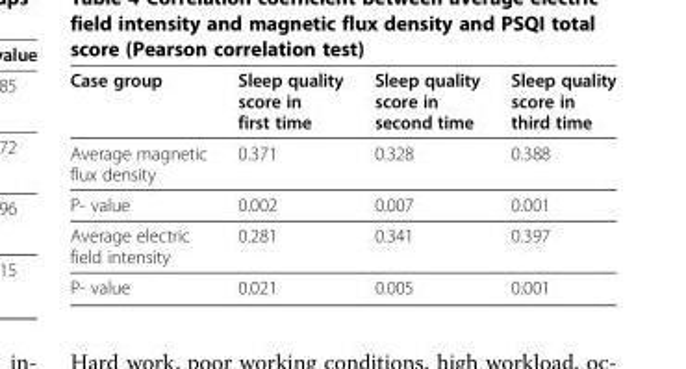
<table><thead><tr><td>Case group</td><td>Sleep quality score in first time</td><td>Sleep quality score in second time</td><td>Sleep quality score in third time</td></tr></thead><tbody><tr><td>Average magnetic flux density</td><td>0.371</td><td>0.328</td><td>0.388</td></tr><tr><td>P- value</td><td>0.002</td><td>0.007</td><td>0.001</td></tr><tr><td>Average electric field intensity</td><td>0.281</td><td>0.341</td><td>0.397</td></tr><tr><td>P- value</td><td>0.021</td><td>0.005</td><td>0.001</td></tr></tbody></table>